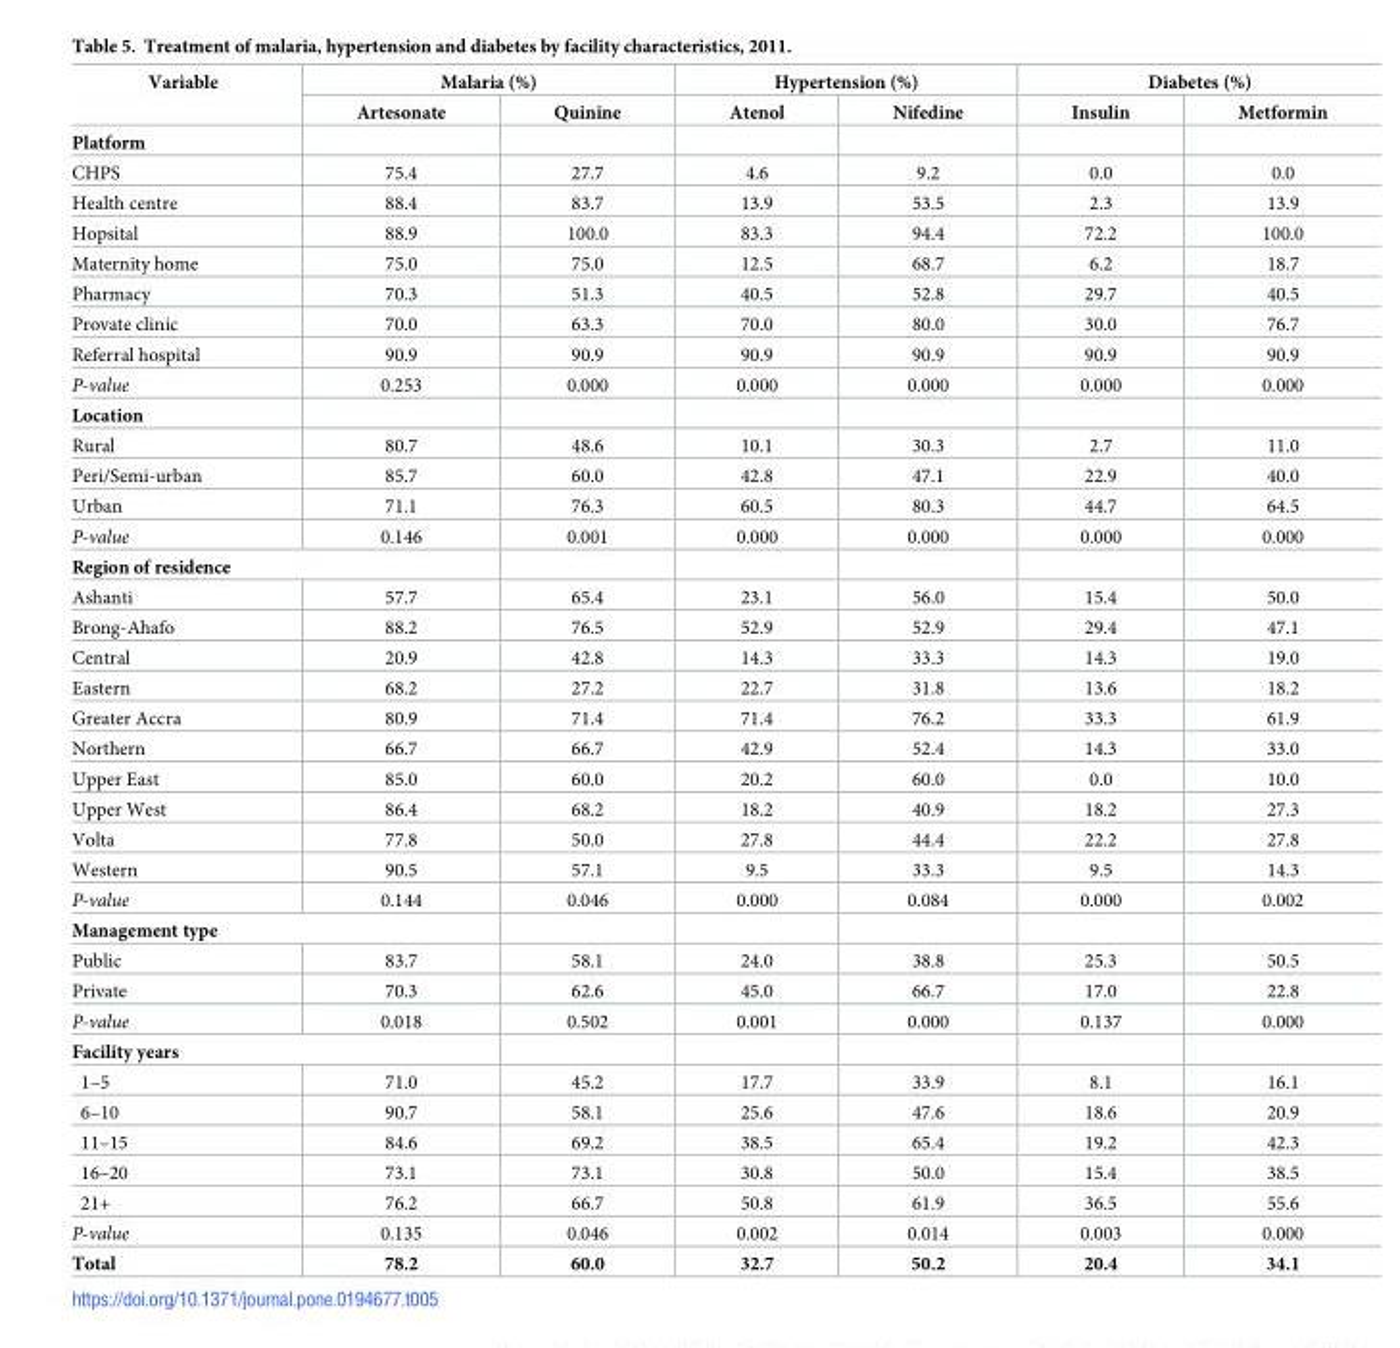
<table><thead><tr><td rowspan="2">Variable</td><td colspan="2">Malaria (%)</td><td colspan="2">Hypertension (%)</td><td colspan="2">Diabetes (%)</td></tr><tr><td>Artesonate</td><td>Quinine</td><td>Atenol</td><td>Nifedine</td><td>Insulin</td><td>Metformin</td></tr></thead><tbody><tr><td colspan="7">Platform</td></tr><tr><td>CHPS</td><td>75.4</td><td>27.7</td><td>4.6</td><td>9.2</td><td>0.0</td><td>0.0</td></tr><tr><td>Health centre</td><td>88.4</td><td>83.7</td><td>13.9</td><td>53.5</td><td>2.3</td><td>13.9</td></tr><tr><td>Hopsital</td><td>88.9</td><td>100.0</td><td>83.3</td><td>94.4</td><td>72.2</td><td>100.0</td></tr><tr><td>Maternity home</td><td>75.0</td><td>75.0</td><td>12.5</td><td>68.7</td><td>6.2</td><td>18.7</td></tr><tr><td>Pharmacy</td><td>70.3</td><td>51.3</td><td>40.5</td><td>52.8</td><td>29.7</td><td>40.5</td></tr><tr><td>Provate clinic</td><td>70.0</td><td>63.3</td><td>70.0</td><td>80.0</td><td>30.0</td><td>76.7</td></tr><tr><td>Referral hospital</td><td>90.9</td><td>90.9</td><td>90.9</td><td>90.9</td><td>90.9</td><td>90.9</td></tr><tr><td>P-value</td><td>0.253</td><td>0.000</td><td>0.000</td><td>0.000</td><td>0.000</td><td>0.000</td></tr><tr><td colspan="7">Location</td></tr><tr><td>Rural</td><td>80.7</td><td>48.6</td><td>10.1</td><td>30.3</td><td>2.7</td><td>11.0</td></tr><tr><td>Peri/Semi-urban</td><td>85.7</td><td>60.0</td><td>42.8</td><td>47.1</td><td>22.9</td><td>40.0</td></tr><tr><td>Urban</td><td>71.1</td><td>76.3</td><td>60.5</td><td>80.3</td><td>44.7</td><td>64.5</td></tr><tr><td>P-value</td><td>0.146</td><td>0.001</td><td>0.000</td><td>0.000</td><td>0.000</td><td>0.000</td></tr><tr><td colspan="7">Region of residence</td></tr><tr><td>Ashanti</td><td>57.7</td><td>65.4</td><td>23.1</td><td>56.0</td><td>15.4</td><td>50.0</td></tr><tr><td>Brong-Ahafo</td><td>88.2</td><td>76.5</td><td>52.9</td><td>52.9</td><td>29.4</td><td>47.1</td></tr><tr><td>Central</td><td>20.9</td><td>42.8</td><td>14.3</td><td>33.3</td><td>14.3</td><td>19.0</td></tr><tr><td>Eastern</td><td>68.2</td><td>27.2</td><td>22.7</td><td>31.8</td><td>13.6</td><td>18.2</td></tr><tr><td>Greater Accra</td><td>80.9</td><td>71.4</td><td>71.4</td><td>76.2</td><td>33.3</td><td>61.9</td></tr><tr><td>Northern</td><td>66.7</td><td>66.7</td><td>42.9</td><td>52.4</td><td>14.3</td><td>33.0</td></tr><tr><td>Upper East</td><td>85.0</td><td>60.0</td><td>20.2</td><td>60.0</td><td>0.0</td><td>10.0</td></tr><tr><td>Upper West</td><td>86.4</td><td>68.2</td><td>18.2</td><td>40.9</td><td>18.2</td><td>27.3</td></tr><tr><td>Volta</td><td>77.8</td><td>50.0</td><td>27.8</td><td>44.4</td><td>22.2</td><td>27.8</td></tr><tr><td>Western</td><td>90.5</td><td>57.1</td><td>9.5</td><td>33.3</td><td>9.5</td><td>14.3</td></tr><tr><td>P-value</td><td>0.144</td><td>0.046</td><td>0.000</td><td>0.084</td><td>0.000</td><td>0.002</td></tr><tr><td colspan="7">Management type</td></tr><tr><td>Public</td><td>83.7</td><td>58.1</td><td>24.0</td><td>38.8</td><td>25.3</td><td>50.5</td></tr><tr><td>Private</td><td>70.3</td><td>62.6</td><td>45.0</td><td>66.7</td><td>17.0</td><td>22.8</td></tr><tr><td>P-value</td><td>0.018</td><td>0.502</td><td>0.001</td><td>0.000</td><td>0.137</td><td>0.000</td></tr><tr><td colspan="7">Facility years</td></tr><tr><td>1–5</td><td>71.0</td><td>45.2</td><td>17.7</td><td>33.9</td><td>8.1</td><td>16.1</td></tr><tr><td>6–10</td><td>90.7</td><td>58.1</td><td>25.6</td><td>47.6</td><td>18.6</td><td>20.9</td></tr><tr><td>11–15</td><td>84.6</td><td>69.2</td><td>38.5</td><td>65.4</td><td>19.2</td><td>42.3</td></tr><tr><td>16–20</td><td>73.1</td><td>73.1</td><td>30.8</td><td>50.0</td><td>15.4</td><td>38.5</td></tr><tr><td>21+</td><td>76.2</td><td>66.7</td><td>50.8</td><td>61.9</td><td>36.5</td><td>55.6</td></tr><tr><td>P-value</td><td>0.135</td><td>0.046</td><td>0.002</td><td>0.014</td><td>0.003</td><td>0.000</td></tr><tr><td>Total</td><td>78.2</td><td>60.0</td><td>32.7</td><td>50.2</td><td>20.4</td><td>34.1</td></tr></tbody></table>